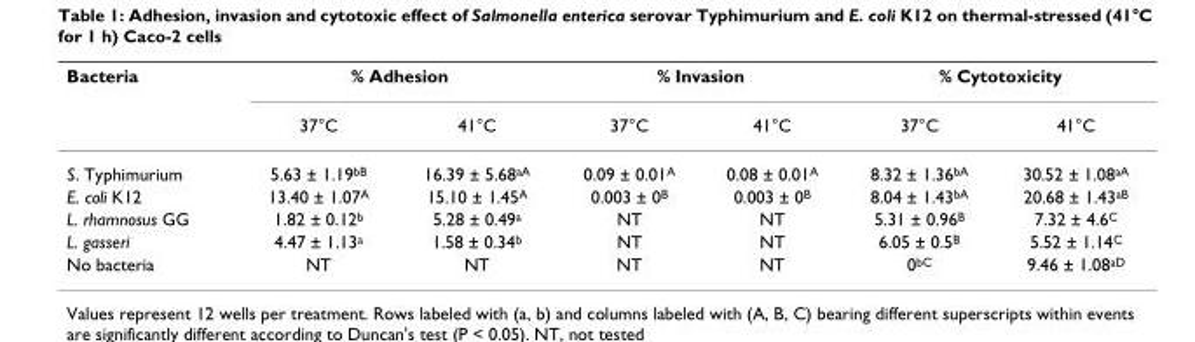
<table><thead><tr><td rowspan="2">Bacteria</td><td colspan="2">% Adhesion</td><td colspan="2">% Invasion</td><td colspan="2">% Cytotoxicity</td></tr><tr><td>37°C</td><td>41°C</td><td>37°C</td><td>41°C</td><td>37°C</td><td>41°C</td></tr></thead><tbody><tr><td>S. Typhimurium</td><td>5.63 ± 1.19<sup>bB</sup></td><td>16.39 ± 5.68<sup>aA</sup></td><td>0.09 ± 0.01<sup>A</sup></td><td>0.08 ± 0.01<sup>A</sup></td><td>8.32 ± 1.36<sup>bA</sup></td><td>30.52 ± 1.08<sup>aA</sup></td></tr><tr><td>E. coli K12</td><td>13.40 ± 1.07<sup>A</sup></td><td>15.10 ± 1.45<sup>A</sup></td><td>0.003 ± 0<sup>B</sup></td><td>0.003 ± 0<sup>B</sup></td><td>8.04 ± 1.43<sup>bA</sup></td><td>20.68 ± 1.43<sup>aB</sup></td></tr><tr><td>L. rhamnosus GG</td><td>1.82 ± 0.12<sup>b</sup></td><td>5.28 ± 0.49<sup>a</sup></td><td>NT</td><td>NT</td><td>5.31 ± 0.96<sup>B</sup></td><td>7.32 ± 4.6<sup>C</sup></td></tr><tr><td>L. gasseri</td><td>4.47 ± 1.13<sup>a</sup></td><td>1.58 ± 0.34<sup>b</sup></td><td>NT</td><td>NT</td><td>6.05 ± 0.5<sup>B</sup></td><td>5.52 ± 1.14<sup>C</sup></td></tr><tr><td>No bacteria</td><td>NT</td><td>NT</td><td>NT</td><td>NT</td><td>0<sup>bC</sup></td><td>9.46 ± 1.08<sup>aD</sup></td></tr></tbody></table>